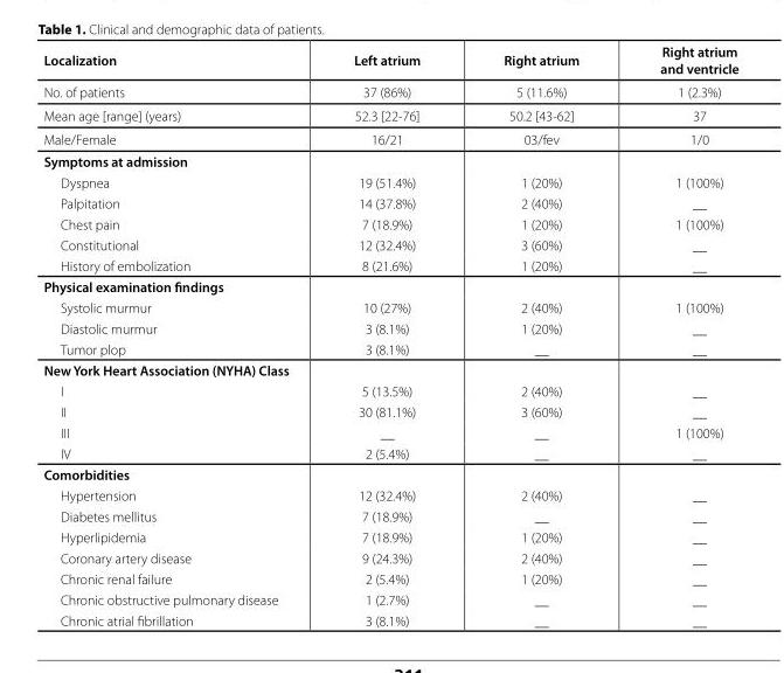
<table><thead><tr><td>Localization</td><td>Left atrium</td><td>Right atrium</td><td>Right atrium and ventricle</td></tr></thead><tbody><tr><td>No. of patients</td><td>37 (86%)</td><td>5 (11.6%)</td><td>1 (2.3%)</td></tr><tr><td>Mean age [range] (years)</td><td>52.3 [22-76]</td><td>50.2 [43-62]</td><td>37</td></tr><tr><td>Male/Female</td><td>16/21</td><td>03/fev</td><td>1/0</td></tr><tr><td colspan="4">Symptoms at admission</td></tr><tr><td>Dyspnea</td><td>19 (51.4%)</td><td>1 (20%)</td><td>1 (100%)</td></tr><tr><td>Palpitation</td><td>14 (37.8%)</td><td>2 (40%)</td><td>__</td></tr><tr><td>Chest pain</td><td>7 (18.9%)</td><td>1 (20%)</td><td>1 (100%)</td></tr><tr><td>Constitutional</td><td>12 (32.4%)</td><td>3 (60%)</td><td>__</td></tr><tr><td>History of embolization</td><td>8 (21.6%)</td><td>1 (20%)</td><td>__</td></tr><tr><td colspan="4">Physical examination findings</td></tr><tr><td>Systolic murmur</td><td>10 (27%)</td><td>2 (40%)</td><td>1 (100%)</td></tr><tr><td>Diastolic murmur</td><td>3 (8.1%)</td><td>1 (20%)</td><td>__</td></tr><tr><td>Tumor plop</td><td>3 (8.1%)</td><td>__</td><td>__</td></tr><tr><td colspan="4">New York Heart Association (NYHA) Class</td></tr><tr><td>I</td><td>5 (13.5%)</td><td>2 (40%)</td><td>__</td></tr><tr><td>II</td><td>30 (81.1%)</td><td>3 (60%)</td><td>__</td></tr><tr><td>III</td><td>__</td><td>__</td><td>1 (100%)</td></tr><tr><td>IV</td><td>2 (5.4%)</td><td>__</td><td>__</td></tr><tr><td colspan="4">Comorbidities</td></tr><tr><td>Hypertension</td><td>12 (32.4%)</td><td>2 (40%)</td><td>__</td></tr><tr><td>Diabetes mellitus</td><td>7 (18.9%)</td><td>__</td><td>__</td></tr><tr><td>Hyperlipidemia</td><td>7 (18.9%)</td><td>1 (20%)</td><td>__</td></tr><tr><td>Coronary artery disease</td><td>9 (24.3%)</td><td>2 (40%)</td><td>__</td></tr><tr><td>Chronic renal failure</td><td>2 (5.4%)</td><td>1 (20%)</td><td>__</td></tr><tr><td>Chronic obstructive pulmonary disease</td><td>1 (2.7%)</td><td>__</td><td>__</td></tr><tr><td>Chronic atrial fibrillation</td><td>3 (8.1%)</td><td>__</td><td>__</td></tr></tbody></table>